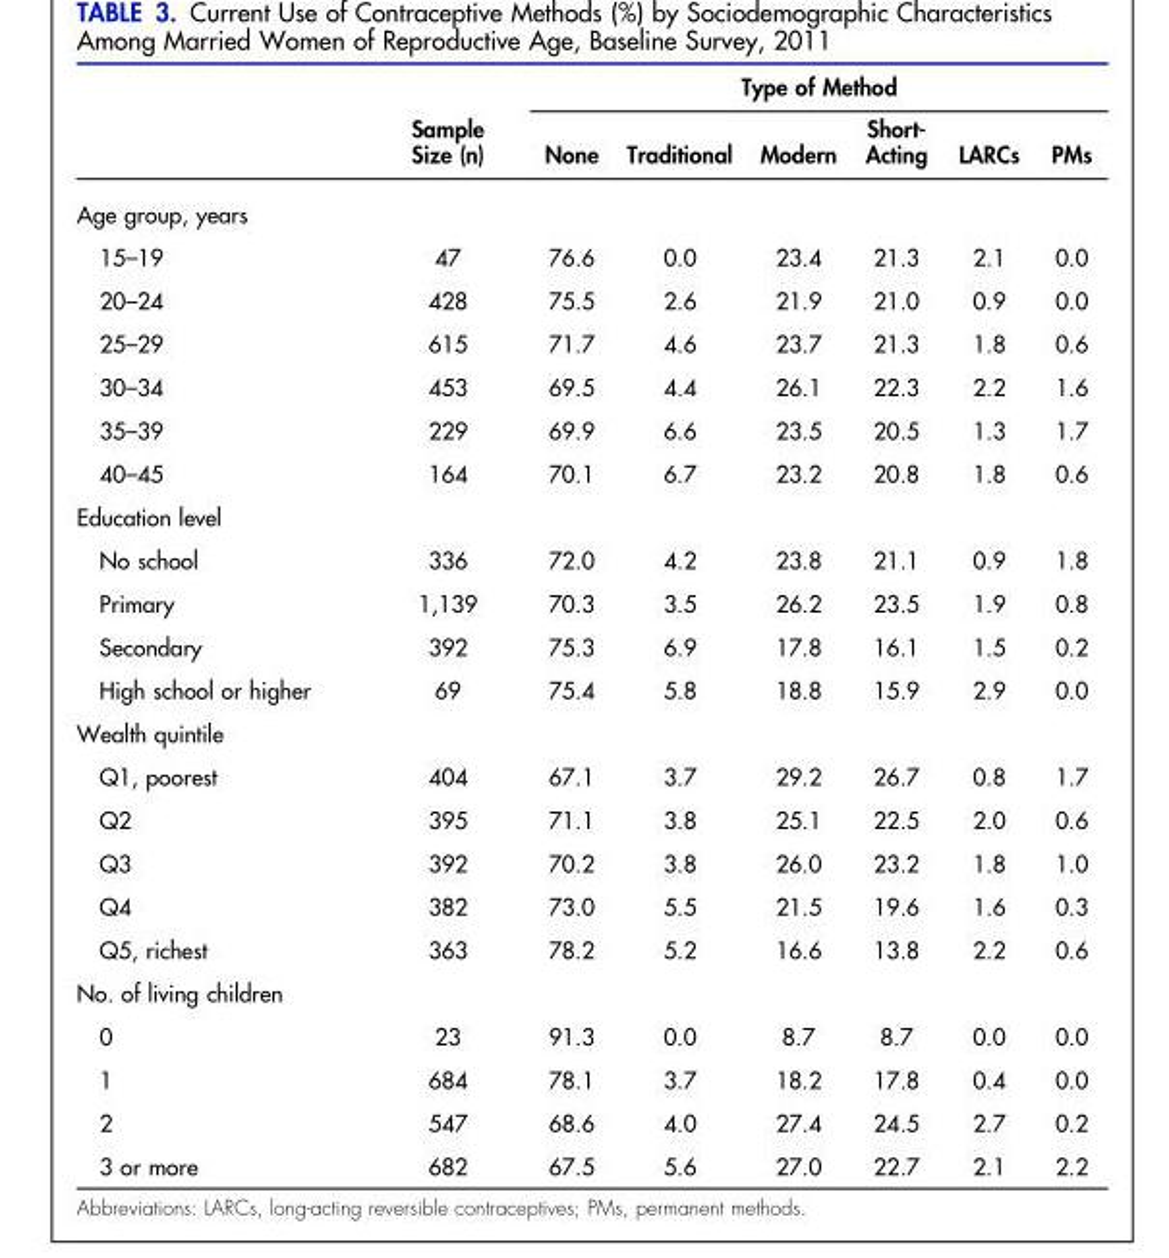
<table><thead><tr><td rowspan="2"></td><td rowspan="2">Sample Size (n)</td><td colspan="6">Type of Method</td></tr><tr><td>None</td><td>Traditional</td><td>Modern</td><td>Short- Acting</td><td>LARCs</td><td>PMs</td></tr></thead><tbody><tr><td colspan="8">Age group, years</td></tr><tr><td>15–19</td><td>47</td><td>76.6</td><td>0.0</td><td>23.4</td><td>21.3</td><td>2.1</td><td>0.0</td></tr><tr><td>20–24</td><td>428</td><td>75.5</td><td>2.6</td><td>21.9</td><td>21.0</td><td>0.9</td><td>0.0</td></tr><tr><td>25–29</td><td>615</td><td>71.7</td><td>4.6</td><td>23.7</td><td>21.3</td><td>1.8</td><td>0.6</td></tr><tr><td>30–34</td><td>453</td><td>69.5</td><td>4.4</td><td>26.1</td><td>22.3</td><td>2.2</td><td>1.6</td></tr><tr><td>35–39</td><td>229</td><td>69.9</td><td>6.6</td><td>23.5</td><td>20.5</td><td>1.3</td><td>1.7</td></tr><tr><td>40–45</td><td>164</td><td>70.1</td><td>6.7</td><td>23.2</td><td>20.8</td><td>1.8</td><td>0.6</td></tr><tr><td colspan="8">Education level</td></tr><tr><td>No school</td><td>336</td><td>72.0</td><td>4.2</td><td>23.8</td><td>21.1</td><td>0.9</td><td>1.8</td></tr><tr><td>Primary</td><td>1,139</td><td>70.3</td><td>3.5</td><td>26.2</td><td>23.5</td><td>1.9</td><td>0.8</td></tr><tr><td>Secondary</td><td>392</td><td>75.3</td><td>6.9</td><td>17.8</td><td>16.1</td><td>1.5</td><td>0.2</td></tr><tr><td>High school or higher</td><td>69</td><td>75.4</td><td>5.8</td><td>18.8</td><td>15.9</td><td>2.9</td><td>0.0</td></tr><tr><td colspan="8">Wealth quintile</td></tr><tr><td>Q1, poorest</td><td>404</td><td>67.1</td><td>3.7</td><td>29.2</td><td>26.7</td><td>0.8</td><td>1.7</td></tr><tr><td>Q2</td><td>395</td><td>71.1</td><td>3.8</td><td>25.1</td><td>22.5</td><td>2.0</td><td>0.6</td></tr><tr><td>Q3</td><td>392</td><td>70.2</td><td>3.8</td><td>26.0</td><td>23.2</td><td>1.8</td><td>1.0</td></tr><tr><td>Q4</td><td>382</td><td>73.0</td><td>5.5</td><td>21.5</td><td>19.6</td><td>1.6</td><td>0.3</td></tr><tr><td>Q5, richest</td><td>363</td><td>78.2</td><td>5.2</td><td>16.6</td><td>13.8</td><td>2.2</td><td>0.6</td></tr><tr><td colspan="8">No. of living children</td></tr><tr><td>0</td><td>23</td><td>91.3</td><td>0.0</td><td>8.7</td><td>8.7</td><td>0.0</td><td>0.0</td></tr><tr><td>1</td><td>684</td><td>78.1</td><td>3.7</td><td>18.2</td><td>17.8</td><td>0.4</td><td>0.0</td></tr><tr><td>2</td><td>547</td><td>68.6</td><td>4.0</td><td>27.4</td><td>24.5</td><td>2.7</td><td>0.2</td></tr><tr><td>3 or more</td><td>682</td><td>67.5</td><td>5.6</td><td>27.0</td><td>22.7</td><td>2.1</td><td>2.2</td></tr></tbody></table>